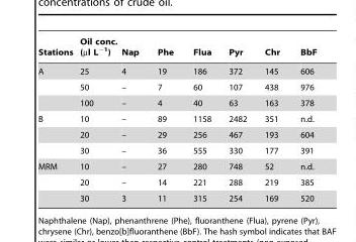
<table><thead><tr><td>Stations</td><td>Oil conc. (µl L<sup>−1</sup>)</td><td>Nap</td><td>Phe</td><td>Flua</td><td>Pyr</td><td>Chr</td><td>BbF</td></tr></thead><tbody><tr><td rowspan="3">A</td><td>25</td><td>4</td><td>19</td><td>186</td><td>372</td><td>145</td><td>606</td></tr><tr><td>50</td><td>–</td><td>7</td><td>60</td><td>107</td><td>438</td><td>976</td></tr><tr><td>100</td><td>–</td><td>4</td><td>40</td><td>63</td><td>163</td><td>378</td></tr><tr><td rowspan="3">B</td><td>10</td><td>–</td><td>89</td><td>1158</td><td>2482</td><td>351</td><td>n.d.</td></tr><tr><td>20</td><td>–</td><td>29</td><td>256</td><td>467</td><td>193</td><td>604</td></tr><tr><td>30</td><td>–</td><td>36</td><td>555</td><td>330</td><td>177</td><td>391</td></tr><tr><td rowspan="3">MRM</td><td>10</td><td>–</td><td>27</td><td>280</td><td>748</td><td>52</td><td>n.d.</td></tr><tr><td>20</td><td>–</td><td>14</td><td>221</td><td>288</td><td>219</td><td>385</td></tr><tr><td>30</td><td>3</td><td>11</td><td>315</td><td>254</td><td>169</td><td>520</td></tr></tbody></table>